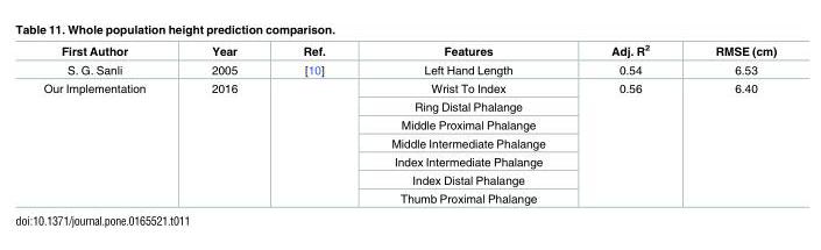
<table><thead><tr><td>First Author</td><td>Year</td><td>Ref.</td><td>Features</td><td>Adj. R<sup>2</sup></td><td>RMSE (cm)</td></tr></thead><tbody><tr><td>S. G. Sanli</td><td>2005</td><td>[10]</td><td>Left Hand Length</td><td>0.54</td><td>6.53</td></tr><tr><td rowspan="7">Our Implementation</td><td rowspan="7">2016</td><td rowspan="7"></td><td>Wrist To Index</td><td rowspan="7">0.56</td><td rowspan="7">6.40</td></tr><tr><td>Ring Distal Phalange</td></tr><tr><td>Middle Proximal Phalange</td></tr><tr><td>Middle Intermediate Phalange</td></tr><tr><td>Index Intermediate Phalange</td></tr><tr><td>Index Distal Phalange</td></tr><tr><td>Thumb Proximal Phalange</td></tr></tbody></table>